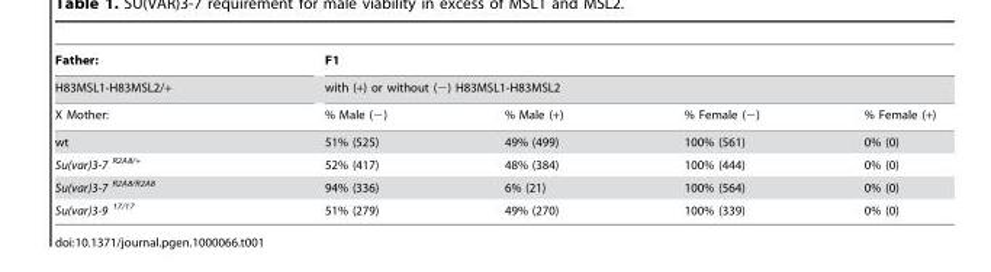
<table><thead><tr><td rowspan="3">Father: H83MSL1-H83MSL2/+ X Mother:</td><td rowspan="2" colspan="4">F1 with (+) or without (−) H83MSL1-H83MSL2</td></tr><tr></tr><tr><td>% Male (−)</td><td>% Male (+)</td><td>% Female (−)</td><td>% Female (+)</td></tr></thead><tbody><tr><td>wt</td><td>51% (525)</td><td>49% (499)</td><td>100% (561)</td><td>0% (0)</td></tr><tr><td>Su(var)3-7 <sup>R2A8/+</sup></td><td>52% (417)</td><td>48% (384)</td><td>100% (444)</td><td>0% (0)</td></tr><tr><td>Su(var)3-7 <sup>R2A8/R2A8</sup></td><td>94% (336)</td><td>6% (21)</td><td>100% (564)</td><td>0% (0)</td></tr><tr><td>Su(var)3-9 <sup>17/17</sup></td><td>51% (279)</td><td>49% (270)</td><td>100% (339)</td><td>0% (0)</td></tr></tbody></table>